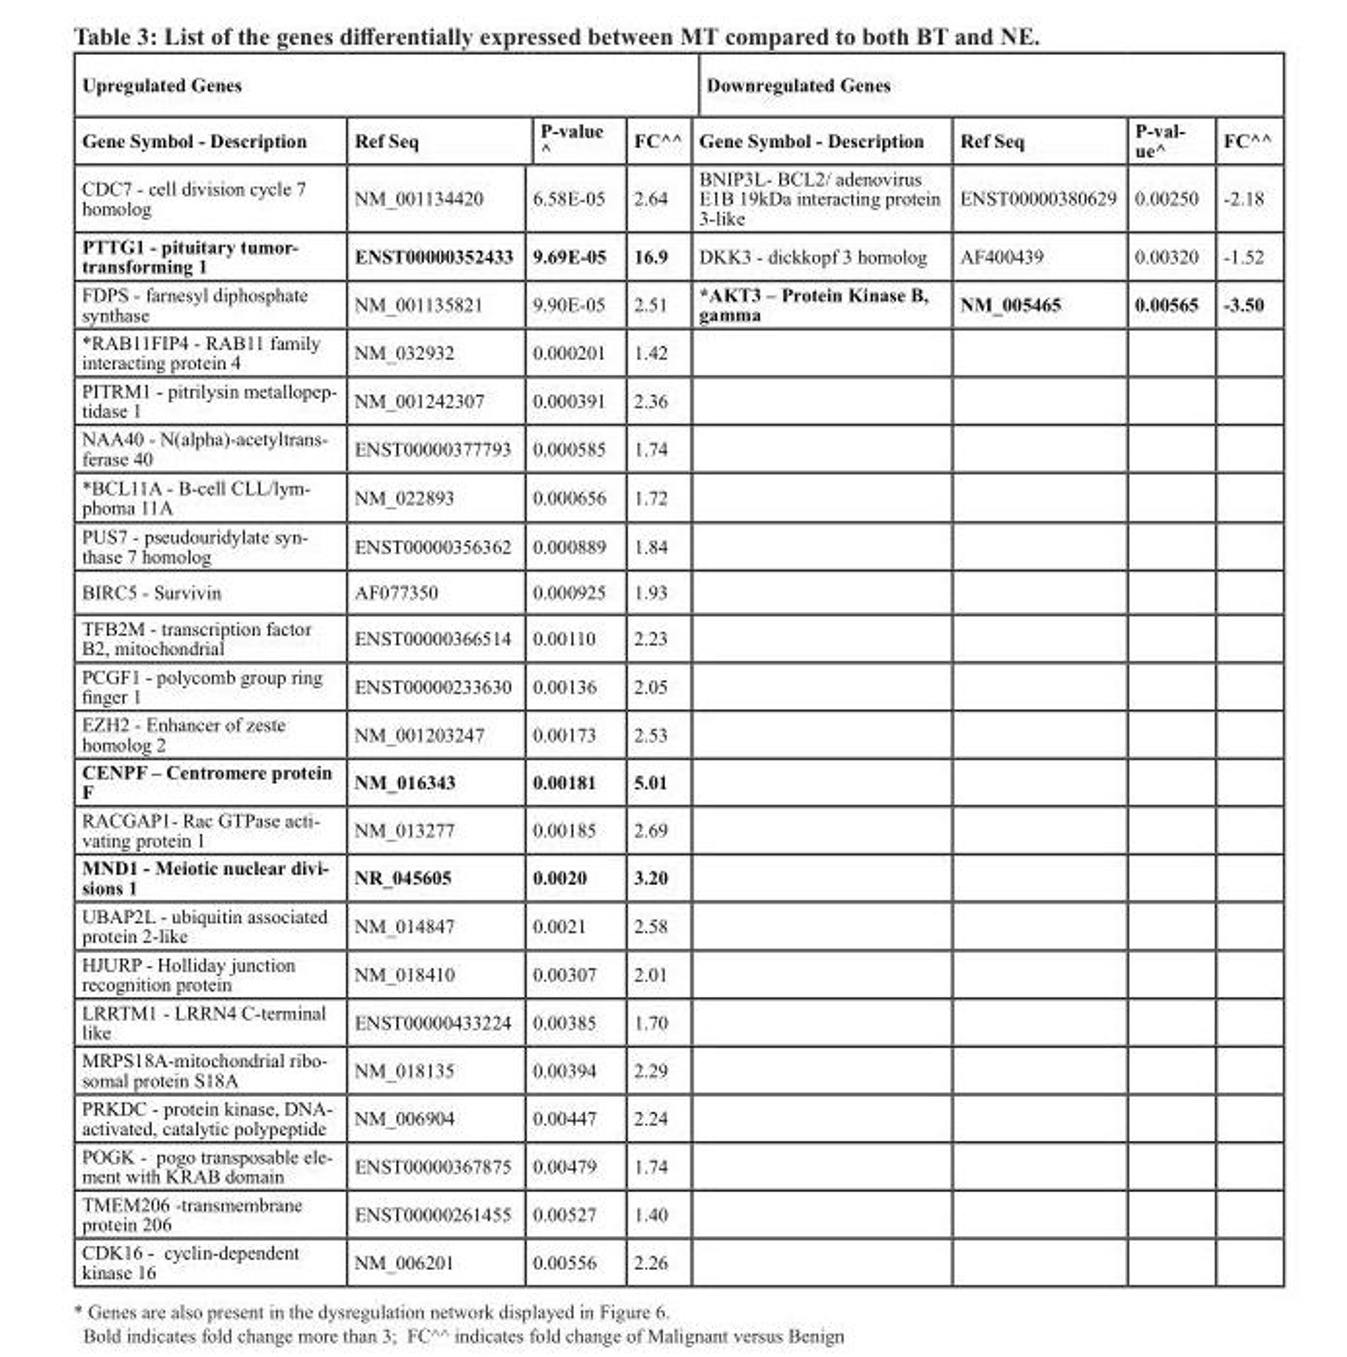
<table><thead><tr><td colspan="4">Upregulated Genes</td><td colspan="4">Downregulated Genes</td></tr><tr><td>Gene Symbol - Description</td><td>Ref Seq</td><td>P-value ^</td><td>FC^^</td><td>Gene Symbol - Description</td><td>Ref Seq</td><td>P-val- ue^</td><td>FC^^</td></tr></thead><tbody><tr><td>CDC7 - cell division cycle 7 homolog</td><td>NM_001134420</td><td>6.58E-05</td><td>2.64</td><td>BNIP3L- BCL2/ adenovirus E1B 19kDa interacting protein 3-like</td><td>ENST00000380629</td><td>0.00250</td><td>-2.18</td></tr><tr><td>PTTG1 - pituitary tumor- transforming 1</td><td>ENST00000352433</td><td>9.69E-05</td><td>16.9</td><td>DKK3 - dickkopf 3 homolog</td><td>AF400439</td><td>0.00320</td><td>-1.52</td></tr><tr><td>FDPS - farnesyl diphosphate synthase</td><td>NM_001135821</td><td>9.90E-05</td><td>2.51</td><td>*AKT3 – Protein Kinase B, gamma</td><td>NM_005465</td><td>0.00565</td><td>-3.50</td></tr><tr><td>*RAB11FIP4 - RAB11 family interacting protein 4</td><td>NM_032932</td><td>0.000201</td><td>1.42</td><td></td><td></td><td></td><td></td></tr><tr><td>PITRM1 - pitrilysin metallopep- tidase 1</td><td>NM_001242307</td><td>0.000391</td><td>2.36</td><td></td><td></td><td></td><td></td></tr><tr><td>NAA40 - N(alpha)-acetyltrans- ferase 40</td><td>ENST00000377793</td><td>0.000585</td><td>1.74</td><td></td><td></td><td></td><td></td></tr><tr><td>*BCL11A - B-cell CLL/lym- phoma 11A</td><td>NM_022893</td><td>0.000656</td><td>1.72</td><td></td><td></td><td></td><td></td></tr><tr><td>PUS7 - pseudouridylate syn- thase 7 homolog</td><td>ENST00000356362</td><td>0.000889</td><td>1.84</td><td></td><td></td><td></td><td></td></tr><tr><td>BIRC5 - Survivin</td><td>AF077350</td><td>0.000925</td><td>1.93</td><td></td><td></td><td></td><td></td></tr><tr><td>TFB2M - transcription factor B2, mitochondrial</td><td>ENST00000366514</td><td>0.00110</td><td>2.23</td><td></td><td></td><td></td><td></td></tr><tr><td>PCGF1 - polycomb group ring finger 1</td><td>ENST00000233630</td><td>0.00136</td><td>2.05</td><td></td><td></td><td></td><td></td></tr><tr><td>EZH2 - Enhancer of zeste homolog 2</td><td>NM_001203247</td><td>0.00173</td><td>2.53</td><td></td><td></td><td></td><td></td></tr><tr><td>CENPF – Centromere protein F</td><td>NM_016343</td><td>0.00181</td><td>5.01</td><td></td><td></td><td></td><td></td></tr><tr><td>RACGAP1- Rac GTPase acti- vating protein 1</td><td>NM_013277</td><td>0.00185</td><td>2.69</td><td></td><td></td><td></td><td></td></tr><tr><td>MND1 - Meiotic nuclear divi- sions 1</td><td>NR_045605</td><td>0.0020</td><td>3.20</td><td></td><td></td><td></td><td></td></tr><tr><td>UBAP2L - ubiquitin associated protein 2-like</td><td>NM_014847</td><td>0.0021</td><td>2.58</td><td></td><td></td><td></td><td></td></tr><tr><td>HJURP - Holliday junction recognition protein</td><td>NM_018410</td><td>0.00307</td><td>2.01</td><td></td><td></td><td></td><td></td></tr><tr><td>LRRTM1 - LRRN4 C-terminal like</td><td>ENST00000433224</td><td>0.00385</td><td>1.70</td><td></td><td></td><td></td><td></td></tr><tr><td>MRPS18A-mitochondrial ribo- somal protein S18A</td><td>NM_018135</td><td>0.00394</td><td>2.29</td><td></td><td></td><td></td><td></td></tr><tr><td>PRKDC - protein kinase, DNA- activated, catalytic polypeptide</td><td>NM_006904</td><td>0.00447</td><td>2.24</td><td></td><td></td><td></td><td></td></tr><tr><td>POGK - pogo transposable ele- ment with KRAB domain</td><td>ENST00000367875</td><td>0.00479</td><td>1.74</td><td></td><td></td><td></td><td></td></tr><tr><td>TMEM206 -transmembrane protein 206</td><td>ENST00000261455</td><td>0.00527</td><td>1.40</td><td></td><td></td><td></td><td></td></tr><tr><td>CDK16 - cyclin-dependent kinase 16</td><td>NM_006201</td><td>0.00556</td><td>2.26</td><td></td><td></td><td></td><td></td></tr></tbody></table>